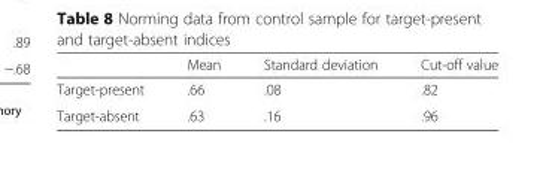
<table><thead><tr><td></td><td>Mean</td><td>Standard deviation</td><td>Cut-off value</td></tr></thead><tbody><tr><td>Target-present</td><td>.66</td><td>.08</td><td>.82</td></tr><tr><td>Target-absent</td><td>.63</td><td>.16</td><td>.96</td></tr></tbody></table>